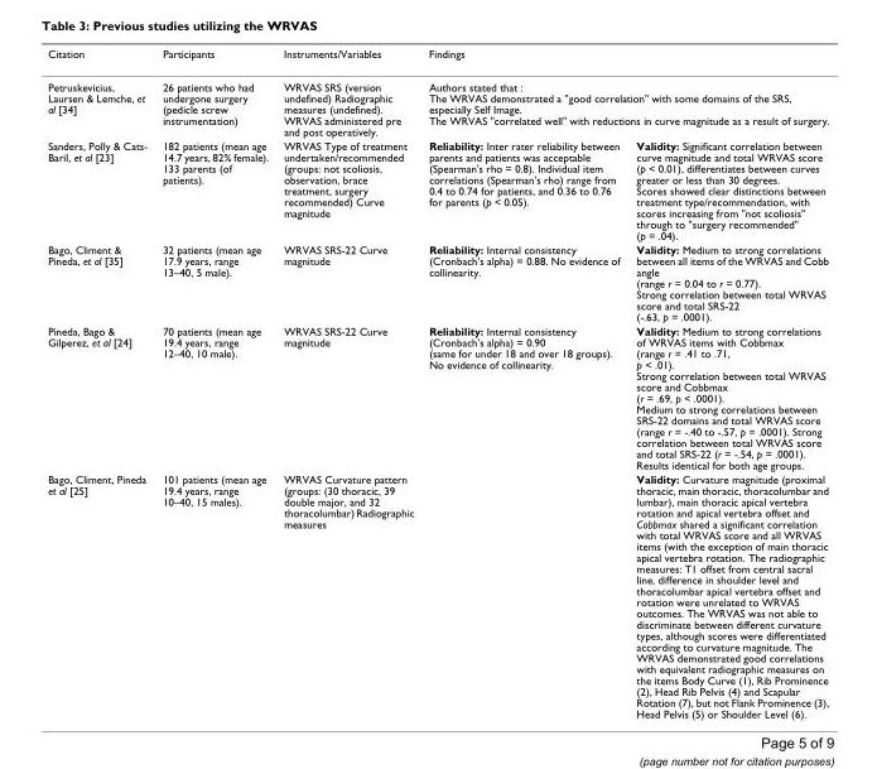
<table><thead><tr><td>Citation</td><td>Participants</td><td>Instruments/Variables</td><td>Findings</td><td></td></tr></thead><tbody><tr><td>Petruskevicius, Laursen &amp; Lemche, et al [34]</td><td>26 patients who had undergone surgery (pedicle screw instrumentation)</td><td>WRVAS SRS (version undefined) Radiographic measures (undefined). WRVAS administered pre and post operatively.</td><td colspan="2">Authors stated that : The WRVAS demonstrated a &quot;good correlation&quot; with some domains of the SRS, especially Self Image. The WRVAS &quot;correlated well&quot; with reductions in curve magnitude as a result of surgery.</td></tr><tr><td>Sanders, Polly &amp; Cats- Baril, et al [23]</td><td>182 patients (mean age 14.7 years, 82% female). 133 parents (of patients).</td><td>WRVAS Type of treatment undertaken/recommended (groups: not scoliosis, observation, brace treatment, surgery recommended) Curve magnitude</td><td>Reliability: Inter rater reliability between parents and patients was acceptable (Spearman&#x27;s rho = 0.8). Individual item correlations (Spearman&#x27;s rho) range from 0.4 to 0.74 for patients, and 0.36 to 0.76 for parents (p &lt; 0.05).</td><td>Validity: Significant correlation between curve magnitude and total WRVAS score (p &lt; 0.01), differentiates between curves greater or less than 30 degrees. Scores showed clear distinctions between treatment type/recommendation, with scores increasing from &quot;not scoliosis&quot; through to &quot;surgery recommended&quot; (p = .04).</td></tr><tr><td>Bago, Climent &amp; Pineda, et al [35]</td><td>32 patients (mean age 17.9 years, range 13–40, 5 male).</td><td>WRVAS SRS-22 Curve magnitude</td><td>Reliability: Internal consistency (Cronbach&#x27;s alpha) = 0.88. No evidence of collinearity.</td><td>Validity: Medium to strong correlations between all items of the WRVAS and Cobb angle (range r = 0.04 to r = 0.77). Strong correlation between total WRVAS score and total SRS-22 (-.63, p = .0001).</td></tr><tr><td>Pineda, Bago &amp; Gilperez, et al [24]</td><td>70 patients (mean age 19.4 years, range 12–40, 10 male).</td><td>WRVAS SRS-22 Curve magnitude</td><td>Reliability: Internal consistency (Cronbach&#x27;s alpha) = 0.90 (same for under 18 and over 18 groups). No evidence of collinearity.</td><td>Validity: Medium to strong correlations of WRVAS items with Cobbmax (range r = .41 to .71, p &lt; .01). Strong correlation between total WRVAS score and Cobbmax (r = .69, p &lt; .0001). Medium to strong correlations between SRS-22 domains and total WRVAS score (range r = -.40 to -.57, p = .0001). Strong correlation between total WRVAS score and total SRS-22 (r = -.54, p = .0001). Results identical for both age groups.</td></tr><tr><td>Bago, Climent, Pineda et al [25]</td><td>101 patients (mean age 19.4 years, range 10–40, 15 males).</td><td>WRVAS Curvature pattern (groups: (30 thoracic, 39 double major, and 32 thoracolumbar) Radiographic measures</td><td></td><td>Validity: Curvature magnitude (proximal thoracic, main thoracic, thoracolumbar and lumbar), main thoracic apical vertebra rotation and apical vertebra offset and Cobbmax shared a significant correlation with total WRVAS score and all WRVAS items (with the exception of main thoracic apical vertebra rotation. The radiographic measures: T1 offset from central sacral line, difference in shoulder level and thoracolumbar apical vertebra offset and rotation were unrelated to WRVAS outcomes. The WRVAS was not able to discriminate between different curvature types, although scores were differentiated according to curvature magnitude. The WRVAS demonstrated good correlations with equivalent radiographic measures on the items Body Curve (1), Rib Prominence (2), Head Rib Pelvis (4) and Scapular Rotation (7), but not Flank Prominence (3), Head Pelvis (5) or Shoulder Level (6).</td></tr></tbody></table>